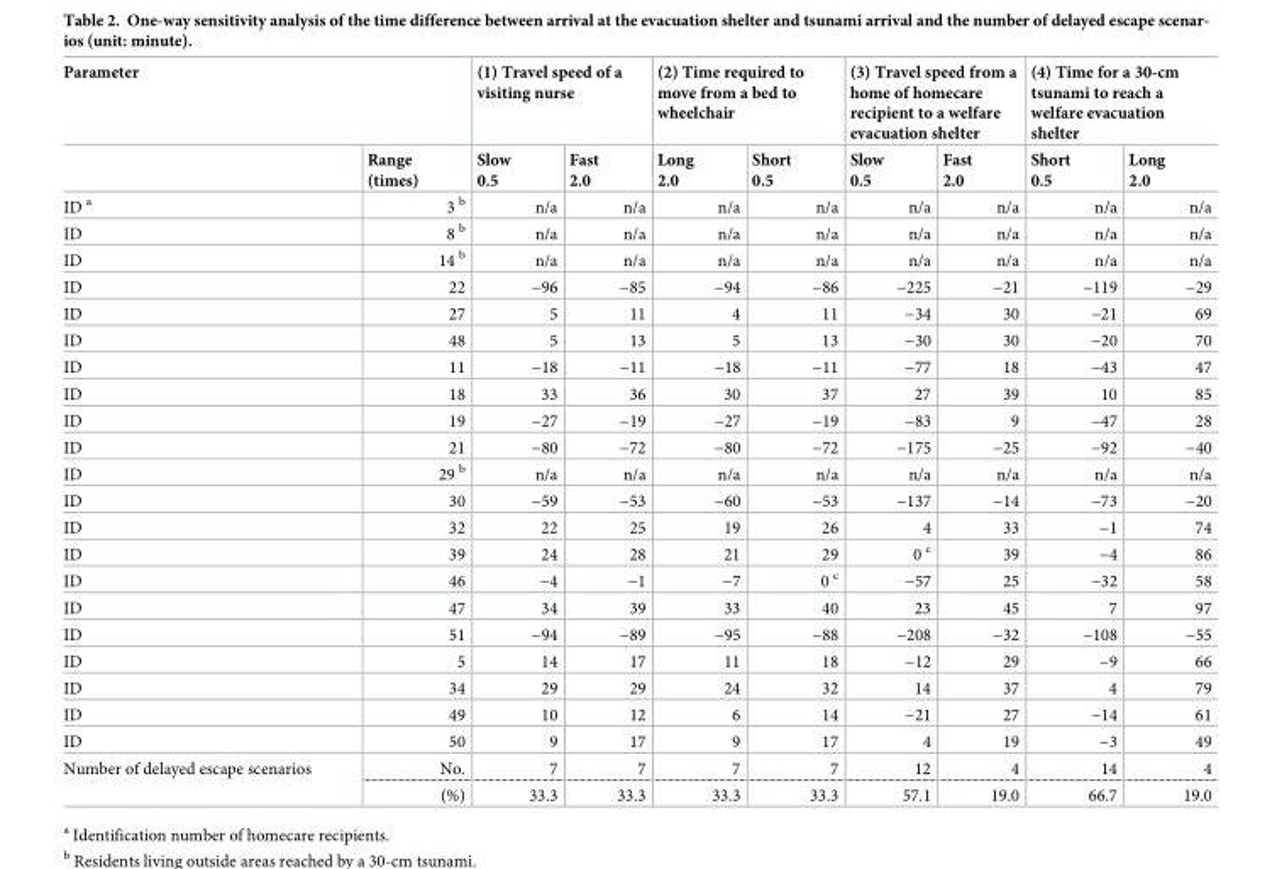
<table><thead><tr><td colspan="2">Parameter</td><td colspan="2">(1) Travel speed of a visiting nurse</td><td colspan="2">(2) Time required to move from a bed to wheelchair</td><td colspan="2">(3) Travel speed from a home of homecare recipient to a welfare evacuation shelter</td><td colspan="2">(4) Time for a 30-cm tsunami to reach a welfare evacuation shelter</td></tr><tr><td></td><td>Range (times)</td><td>Slow 0.5</td><td>Fast 2.0</td><td>Long 2.0</td><td>Short 0.5</td><td>Slow 0.5</td><td>Fast 2.0</td><td>Short 0.5</td><td>Long 2.0</td></tr></thead><tbody><tr><td>ID <sup>a</sup></td><td>3 <sup>b</sup></td><td>n/a</td><td>n/a</td><td>n/a</td><td>n/a</td><td>n/a</td><td>n/a</td><td>n/a</td><td>n/a</td></tr><tr><td>ID</td><td>8 <sup>b</sup></td><td>n/a</td><td>n/a</td><td>n/a</td><td>n/a</td><td>n/a</td><td>n/a</td><td>n/a</td><td>n/a</td></tr><tr><td>ID</td><td>14 <sup>b</sup></td><td>n/a</td><td>n/a</td><td>n/a</td><td>n/a</td><td>n/a</td><td>n/a</td><td>n/a</td><td>n/a</td></tr><tr><td>ID</td><td>22</td><td>−96</td><td>−85</td><td>−94</td><td>−86</td><td>−225</td><td>−21</td><td>−119</td><td>−29</td></tr><tr><td>ID</td><td>27</td><td>5</td><td>11</td><td>4</td><td>11</td><td>−34</td><td>30</td><td>−21</td><td>69</td></tr><tr><td>ID</td><td>48</td><td>5</td><td>13</td><td>5</td><td>13</td><td>−30</td><td>30</td><td>−20</td><td>70</td></tr><tr><td>ID</td><td>11</td><td>−18</td><td>−11</td><td>−18</td><td>−11</td><td>−77</td><td>18</td><td>−43</td><td>47</td></tr><tr><td>ID</td><td>18</td><td>33</td><td>36</td><td>30</td><td>37</td><td>27</td><td>39</td><td>10</td><td>85</td></tr><tr><td>ID</td><td>19</td><td>−27</td><td>−19</td><td>−27</td><td>−19</td><td>−83</td><td>9</td><td>−47</td><td>28</td></tr><tr><td>ID</td><td>21</td><td>−80</td><td>−72</td><td>−80</td><td>−72</td><td>−175</td><td>−25</td><td>−92</td><td>−40</td></tr><tr><td>ID</td><td>29 <sup>b</sup></td><td>n/a</td><td>n/a</td><td>n/a</td><td>n/a</td><td>n/a</td><td>n/a</td><td>n/a</td><td>n/a</td></tr><tr><td>ID</td><td>30</td><td>−59</td><td>−53</td><td>−60</td><td>−53</td><td>−137</td><td>−14</td><td>−73</td><td>−20</td></tr><tr><td>ID</td><td>32</td><td>22</td><td>25</td><td>19</td><td>26</td><td>4</td><td>33</td><td>−1</td><td>74</td></tr><tr><td>ID</td><td>39</td><td>24</td><td>28</td><td>21</td><td>29</td><td>0 <sup>c</sup></td><td>39</td><td>−4</td><td>86</td></tr><tr><td>ID</td><td>46</td><td>−4</td><td>−1</td><td>−7</td><td>0 <sup>c</sup></td><td>−57</td><td>25</td><td>−32</td><td>58</td></tr><tr><td>ID</td><td>47</td><td>34</td><td>39</td><td>33</td><td>40</td><td>23</td><td>45</td><td>7</td><td>97</td></tr><tr><td>ID</td><td>51</td><td>−94</td><td>−89</td><td>−95</td><td>−88</td><td>−208</td><td>−32</td><td>−108</td><td>−55</td></tr><tr><td>ID</td><td>5</td><td>14</td><td>17</td><td>11</td><td>18</td><td>−12</td><td>29</td><td>−9</td><td>66</td></tr><tr><td>ID</td><td>34</td><td>29</td><td>29</td><td>24</td><td>32</td><td>14</td><td>37</td><td>4</td><td>79</td></tr><tr><td>ID</td><td>49</td><td>10</td><td>12</td><td>6</td><td>14</td><td>−21</td><td>27</td><td>−14</td><td>61</td></tr><tr><td>ID</td><td>50</td><td>9</td><td>17</td><td>9</td><td>17</td><td>4</td><td>19</td><td>−3</td><td>49</td></tr><tr><td rowspan="2">Number of delayed escape scenarios</td><td>No.</td><td>7</td><td>7</td><td>7</td><td>7</td><td>12</td><td>4</td><td>14</td><td>4</td></tr><tr><td>(%)</td><td>33.3</td><td>33.3</td><td>33.3</td><td>33.3</td><td>57.1</td><td>19.0</td><td>66.7</td><td>19.0</td></tr></tbody></table>